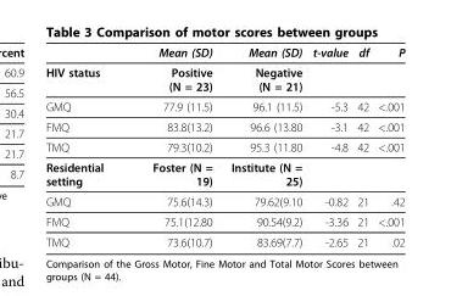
<table><thead><tr><td></td><td>Mean (SD)</td><td>Mean (SD)</td><td>t-value</td><td>df</td><td>P</td></tr></thead><tbody><tr><td>HIV status</td><td>Positive (N = 23)</td><td>Negative (N = 21)</td><td></td><td></td><td></td></tr><tr><td>GMQ</td><td>77.9 (11.5)</td><td>96.1 (11.5)</td><td>-5.3</td><td>42</td><td>&lt;.001</td></tr><tr><td>FMQ</td><td>83.8(13.2)</td><td>96.6 (13.80</td><td>-3.1</td><td>42</td><td>&lt;.001</td></tr><tr><td>TMQ</td><td>79.3(10.2)</td><td>95.3 (11.80</td><td>-4.8</td><td>42</td><td>&lt;.001</td></tr><tr><td>Residential setting</td><td>Foster (N = 19)</td><td>Institute (N = 25)</td><td></td><td></td><td></td></tr><tr><td>GMQ</td><td>75.6(14.3)</td><td>79.62(9.10</td><td>-0.82</td><td>21</td><td>.42</td></tr><tr><td>FMQ</td><td>75.1(12.80</td><td>90.54(9.2)</td><td>-3.36</td><td>21</td><td>&lt;.001</td></tr><tr><td>TMQ</td><td>73.6(10.7)</td><td>83.69(7.7)</td><td>-2.65</td><td>21</td><td>.02</td></tr></tbody></table>